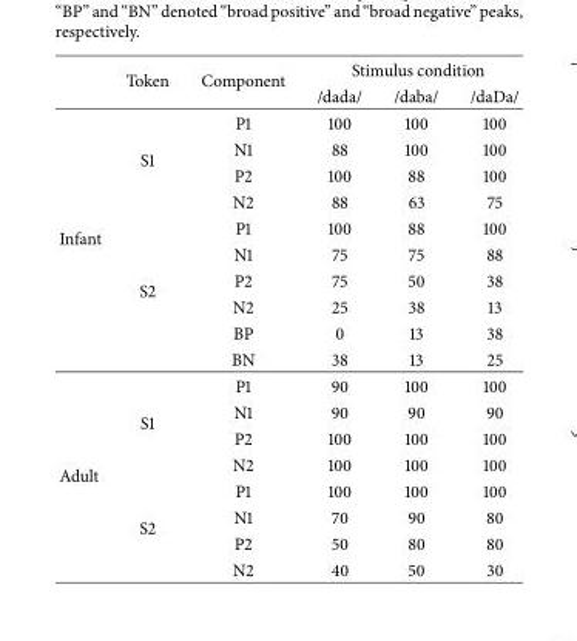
<table><thead><tr><td rowspan="2"></td><td rowspan="2">Token</td><td rowspan="2">Component</td><td colspan="3">Stimulus condition</td></tr><tr><td>/dada/</td><td>/daba/</td><td>/daDa/</td></tr></thead><tbody><tr><td rowspan="10">Infant</td><td rowspan="4">S1</td><td>P1</td><td>100</td><td>100</td><td>100</td></tr><tr><td>N1</td><td>88</td><td>100</td><td>100</td></tr><tr><td>P2</td><td>100</td><td>88</td><td>100</td></tr><tr><td>N2</td><td>88</td><td>63</td><td>75</td></tr><tr><td rowspan="6">S2</td><td>P1</td><td>100</td><td>88</td><td>100</td></tr><tr><td>N1</td><td>75</td><td>75</td><td>88</td></tr><tr><td>P2</td><td>75</td><td>50</td><td>38</td></tr><tr><td>N2</td><td>25</td><td>38</td><td>13</td></tr><tr><td>BP</td><td>0</td><td>13</td><td>38</td></tr><tr><td>BN</td><td>38</td><td>13</td><td>25</td></tr><tr><td rowspan="8">Adult</td><td rowspan="4">S1</td><td>P1</td><td>90</td><td>100</td><td>100</td></tr><tr><td>N1</td><td>90</td><td>90</td><td>90</td></tr><tr><td>P2</td><td>100</td><td>100</td><td>100</td></tr><tr><td>N2</td><td>100</td><td>100</td><td>100</td></tr><tr><td rowspan="4">S2</td><td>P1</td><td>100</td><td>100</td><td>100</td></tr><tr><td>N1</td><td>70</td><td>90</td><td>80</td></tr><tr><td>P2</td><td>50</td><td>80</td><td>80</td></tr><tr><td>N2</td><td>40</td><td>50</td><td>30</td></tr></tbody></table>